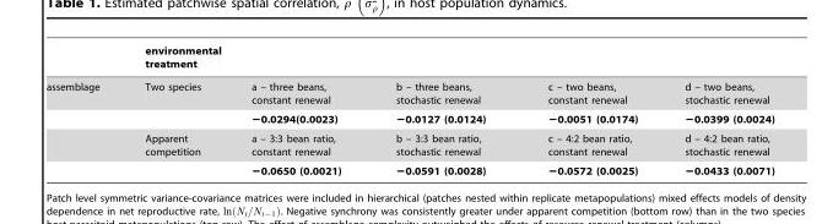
<table><thead><tr><td rowspan="2">assemblage</td><td colspan="5">environmental treatment</td></tr><tr><td>Two species</td><td>a – three beans, constant renewal</td><td>b – three beans, stochastic renewal</td><td>c – two beans, constant renewal</td><td>d – two beans, stochastic renewal</td></tr></thead><tbody><tr><td></td><td></td><td>−0.0294(0.0023)</td><td>−0.0127 (0.0124)</td><td>−0.0051 (0.0174)</td><td>−0.0399 (0.0024)</td></tr><tr><td></td><td>Apparent competition</td><td>a – 3:3 bean ratio, constant renewal</td><td>b – 3:3 bean ratio, stochastic renewal</td><td>c – 4:2 bean ratio, constant renewal</td><td>d – 4:2 bean ratio, stochastic renewal</td></tr><tr><td></td><td></td><td>−0.0650 (0.0021)</td><td>−0.0591 (0.0028)</td><td>−0.0572 (0.0025)</td><td>−0.0433 (0.0071)</td></tr></tbody></table>